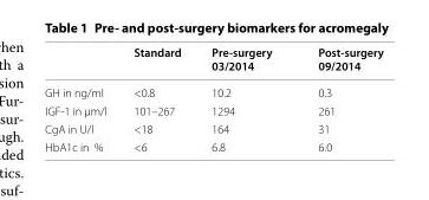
<table><thead><tr><td></td><td>Standard</td><td>Pre-surgery 03/2014</td><td>Post-surgery 09/2014</td></tr></thead><tbody><tr><td>GH in ng/ml</td><td>&lt;0.8</td><td>10.2</td><td>0.3</td></tr><tr><td>IGF-1 in µm/l</td><td>101–267</td><td>1294</td><td>261</td></tr><tr><td>CgA in U/l</td><td>&lt;18</td><td>164</td><td>31</td></tr><tr><td>HbA1c in %</td><td>&lt;6</td><td>6.8</td><td>6.0</td></tr></tbody></table>